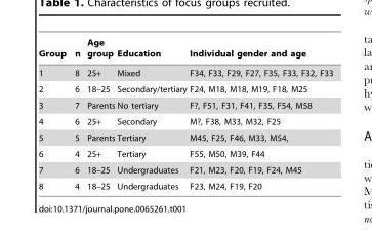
<table><thead><tr><td>Group</td><td>n</td><td>Age group</td><td>Education</td><td>Individual gender and age</td></tr></thead><tbody><tr><td>1</td><td>8</td><td>25+</td><td>Mixed</td><td>F34, F33, F29, F27, F35, F33, F32, F33</td></tr><tr><td>2</td><td>6</td><td>18–25</td><td>Secondary/tertiary</td><td>F24, M18, M18, M19, F18, M25</td></tr><tr><td>3</td><td>7</td><td>Parents</td><td>No tertiary</td><td>F?, F51, F31, F41, F35, F54, M58</td></tr><tr><td>4</td><td>6</td><td>25+</td><td>Secondary</td><td>M?, F38, M33, M32, F25</td></tr><tr><td>5</td><td>5</td><td>Parents</td><td>Tertiary</td><td>M45, F25, F46, M33, M54,</td></tr><tr><td>6</td><td>4</td><td>25+</td><td>Tertiary</td><td>F55, M50, M39, F44</td></tr><tr><td>7</td><td>6</td><td>18–25</td><td>Undergraduates</td><td>F21, M23, F20, F19, F24, M45</td></tr><tr><td>8</td><td>4</td><td>18–25</td><td>Undergraduates</td><td>F23, M24, F19, F20</td></tr></tbody></table>